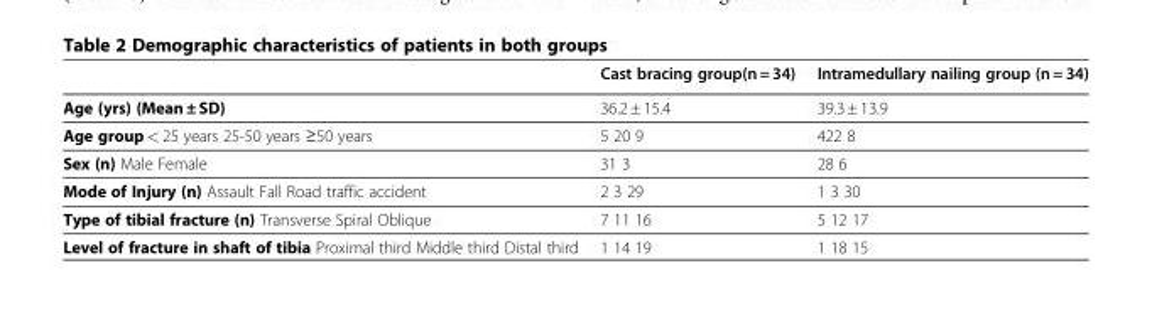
<table><thead><tr><td></td><td>Cast bracing group(n = 34)</td><td>Intramedullary nailing group (n = 34)</td></tr></thead><tbody><tr><td>Age (yrs) (Mean ± SD)</td><td>36.2 ± 15.4</td><td>39.3 ± 13.9</td></tr><tr><td>Age group &lt; 25 years 25-50 years ≥50 years</td><td>5 20 9</td><td>422 8</td></tr><tr><td>Sex (n) Male Female</td><td>31 3</td><td>28 6</td></tr><tr><td>Mode of Injury (n) Assault Fall Road traffic accident</td><td>2 3 29</td><td>1 3 30</td></tr><tr><td>Type of tibial fracture (n) Transverse Spiral Oblique</td><td>7 11 16</td><td>5 12 17</td></tr><tr><td>Level of fracture in shaft of tibia Proximal third Middle third Distal third</td><td>1 14 19</td><td>1 18 15</td></tr></tbody></table>